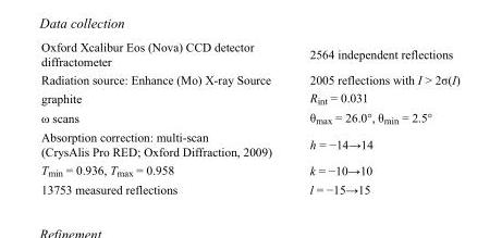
<table><tbody><tr><td>Oxford Xcalibur Eos (Nova) CCD detector diffractometer</td><td>2564 independent reflections</td></tr><tr><td>Radiation source: Enhance (Mo) X-ray Source</td><td>2005 reflections with I &gt; 2σ(I)</td></tr><tr><td>graphite</td><td>R<sub>int</sub> = 0.031</td></tr><tr><td>ω scans</td><td>θ<sub>max</sub> = 26.0°, θ<sub>min</sub> = 2.5°</td></tr><tr><td>Absorption correction: multi-scan (CrysAlis Pro RED; Oxford Diffraction, 2009)</td><td>h = −14→14</td></tr><tr><td>T<sub>min</sub> = 0.936, T<sub>max</sub> = 0.958</td><td>k = −10→10</td></tr><tr><td>13753 measured reflections</td><td>l = −15→15</td></tr></tbody></table>